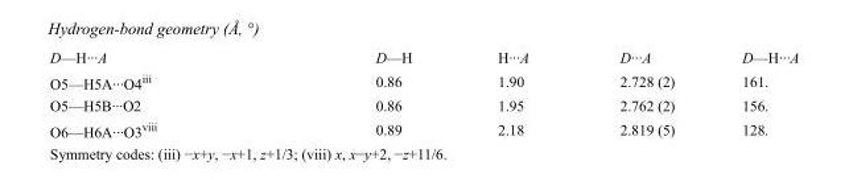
<table><tbody><tr><td>D—H···A</td><td>D—H</td><td>H···A</td><td>D···A</td><td>D—H···A</td></tr><tr><td>O5—H5A···O4<sup>iii</sup></td><td>0.86</td><td>1.90</td><td>2.728 (2)</td><td>161.</td></tr><tr><td>O5—H5B···O2</td><td>0.86</td><td>1.95</td><td>2.762 (2)</td><td>156.</td></tr><tr><td>O6—H6A···O3<sup>viii</sup></td><td>0.89</td><td>2.18</td><td>2.819 (5)</td><td>128.</td></tr></tbody></table>